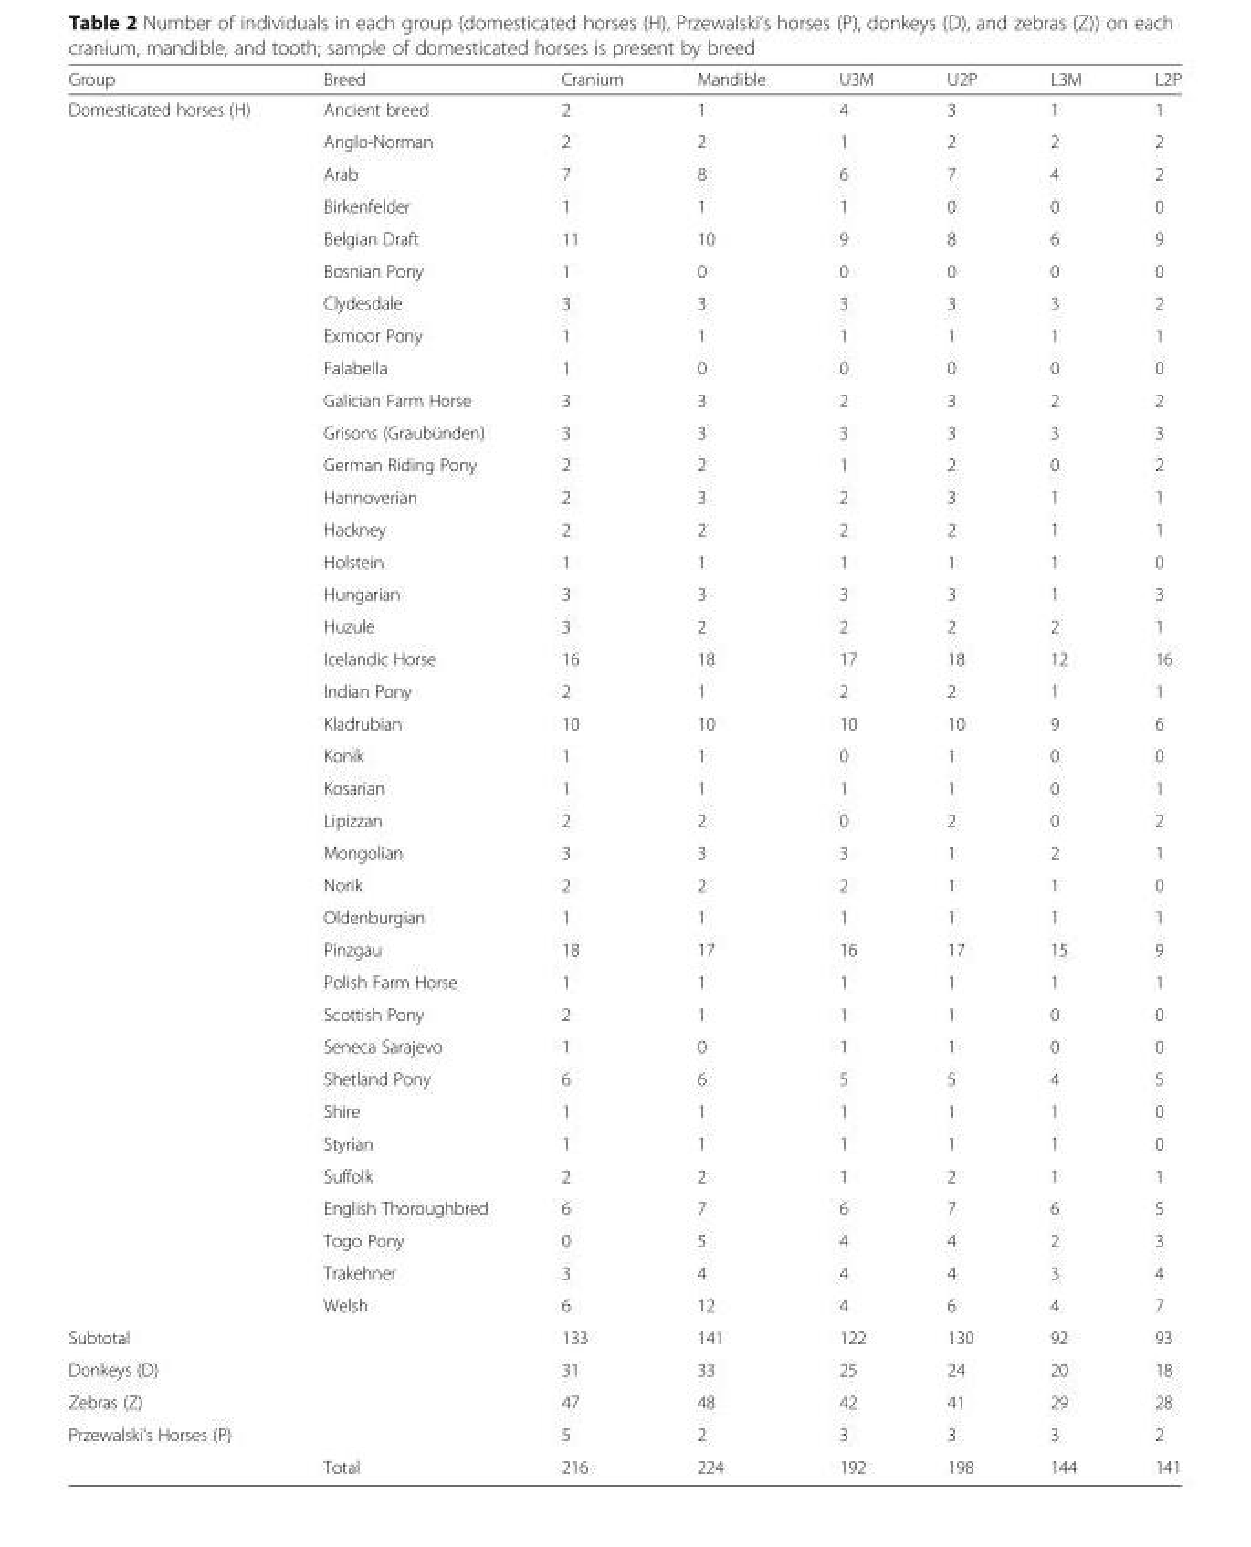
<table><thead><tr><td>Group</td><td>Breed</td><td>Cranium</td><td>Mandible</td><td>U3M</td><td>U2P</td><td>L3M</td><td>L2P</td></tr></thead><tbody><tr><td rowspan="38">Domesticated horses (H)</td><td>Ancient breed</td><td>2</td><td>1</td><td>4</td><td>3</td><td>1</td><td>1</td></tr><tr><td>Anglo-Norman</td><td>2</td><td>2</td><td>1</td><td>2</td><td>2</td><td>2</td></tr><tr><td>Arab</td><td>7</td><td>8</td><td>6</td><td>7</td><td>4</td><td>2</td></tr><tr><td>Birkenfelder</td><td>1</td><td>1</td><td>1</td><td>0</td><td>0</td><td>0</td></tr><tr><td>Belgian Draft</td><td>11</td><td>10</td><td>9</td><td>8</td><td>6</td><td>9</td></tr><tr><td>Bosnian Pony</td><td>1</td><td>0</td><td>0</td><td>0</td><td>0</td><td>0</td></tr><tr><td>Clydesdale</td><td>3</td><td>3</td><td>3</td><td>3</td><td>3</td><td>2</td></tr><tr><td>Exmoor Pony</td><td>1</td><td>1</td><td>1</td><td>1</td><td>1</td><td>1</td></tr><tr><td>Falabella</td><td>1</td><td>0</td><td>0</td><td>0</td><td>0</td><td>0</td></tr><tr><td>Galician Farm Horse</td><td>3</td><td>3</td><td>2</td><td>3</td><td>2</td><td>2</td></tr><tr><td>Grisons (Graubünden)</td><td>3</td><td>3</td><td>3</td><td>3</td><td>3</td><td>3</td></tr><tr><td>German Riding Pony</td><td>2</td><td>2</td><td>1</td><td>2</td><td>0</td><td>2</td></tr><tr><td>Hannoverian</td><td>2</td><td>3</td><td>2</td><td>3</td><td>1</td><td>1</td></tr><tr><td>Hackney</td><td>2</td><td>2</td><td>2</td><td>2</td><td>1</td><td>1</td></tr><tr><td>Holstein</td><td>1</td><td>1</td><td>1</td><td>1</td><td>1</td><td>0</td></tr><tr><td>Hungarian</td><td>3</td><td>3</td><td>3</td><td>3</td><td>1</td><td>3</td></tr><tr><td>Huzule</td><td>3</td><td>2</td><td>2</td><td>2</td><td>2</td><td>1</td></tr><tr><td>Icelandic Horse</td><td>16</td><td>18</td><td>17</td><td>18</td><td>12</td><td>16</td></tr><tr><td>Indian Pony</td><td>2</td><td>1</td><td>2</td><td>2</td><td>1</td><td>1</td></tr><tr><td>Kladrubian</td><td>10</td><td>10</td><td>10</td><td>10</td><td>9</td><td>6</td></tr><tr><td>Konik</td><td>1</td><td>1</td><td>0</td><td>1</td><td>0</td><td>0</td></tr><tr><td>Kosarian</td><td>1</td><td>1</td><td>1</td><td>1</td><td>0</td><td>1</td></tr><tr><td>Lipizzan</td><td>2</td><td>2</td><td>0</td><td>2</td><td>0</td><td>2</td></tr><tr><td>Mongolian</td><td>3</td><td>3</td><td>3</td><td>1</td><td>2</td><td>1</td></tr><tr><td>Norik</td><td>2</td><td>2</td><td>2</td><td>1</td><td>1</td><td>0</td></tr><tr><td>Oldenburgian</td><td>1</td><td>1</td><td>1</td><td>1</td><td>1</td><td>1</td></tr><tr><td>Pinzgau</td><td>18</td><td>17</td><td>16</td><td>17</td><td>15</td><td>9</td></tr><tr><td>Polish Farm Horse</td><td>1</td><td>1</td><td>1</td><td>1</td><td>1</td><td>1</td></tr><tr><td>Scottish Pony</td><td>2</td><td>1</td><td>1</td><td>1</td><td>0</td><td>0</td></tr><tr><td>Seneca Sarajevo</td><td>1</td><td>0</td><td>1</td><td>1</td><td>0</td><td>0</td></tr><tr><td>Shetland Pony</td><td>6</td><td>6</td><td>5</td><td>5</td><td>4</td><td>5</td></tr><tr><td>Shire</td><td>1</td><td>1</td><td>1</td><td>1</td><td>1</td><td>0</td></tr><tr><td>Styrian</td><td>1</td><td>1</td><td>1</td><td>1</td><td>1</td><td>0</td></tr><tr><td>Suffolk</td><td>2</td><td>2</td><td>1</td><td>2</td><td>1</td><td>1</td></tr><tr><td>English Thoroughbred</td><td>6</td><td>7</td><td>6</td><td>7</td><td>6</td><td>5</td></tr><tr><td>Togo Pony</td><td>0</td><td>5</td><td>4</td><td>4</td><td>2</td><td>3</td></tr><tr><td>Trakehner</td><td>3</td><td>4</td><td>4</td><td>4</td><td>3</td><td>4</td></tr><tr><td>Welsh</td><td>6</td><td>12</td><td>4</td><td>6</td><td>4</td><td>7</td></tr><tr><td colspan="2">Subtotal</td><td>133</td><td>141</td><td>122</td><td>130</td><td>92</td><td>93</td></tr><tr><td colspan="2">Donkeys (D)</td><td>31</td><td>33</td><td>25</td><td>24</td><td>20</td><td>18</td></tr><tr><td colspan="2">Zebras (Z)</td><td>47</td><td>48</td><td>42</td><td>41</td><td>29</td><td>28</td></tr><tr><td colspan="2">Przewalski’s Horses (P)</td><td>5</td><td>2</td><td>3</td><td>3</td><td>3</td><td>2</td></tr><tr><td></td><td>Total</td><td>216</td><td>224</td><td>192</td><td>198</td><td>144</td><td>141</td></tr></tbody></table>